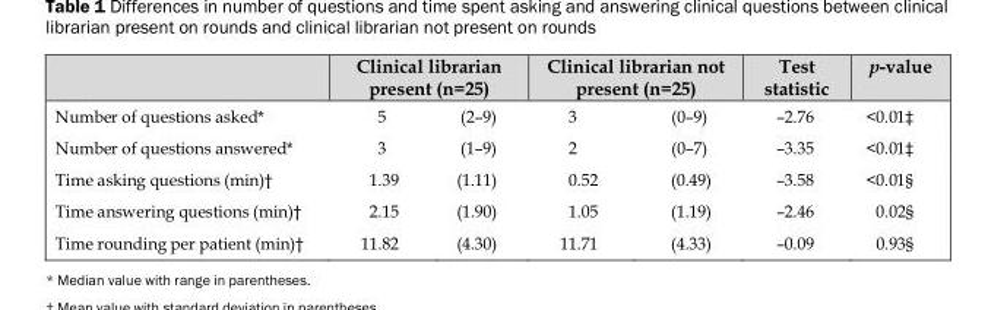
<table><thead><tr><td></td><td>Clinical librarian present (n=25)</td><td>Clinical librarian not present (n=25)</td><td>Test statistic</td><td>p-value</td></tr></thead><tbody><tr><td>Number of questions asked*</td><td>5 (2–9)</td><td>3 (0–9)</td><td>–2.76</td><td>&lt;0.01‡</td></tr><tr><td>Number of questions answered*</td><td>3 (1–9)</td><td>2 (0–7)</td><td>–3.35</td><td>&lt;0.01‡</td></tr><tr><td>Time asking questions (min)†</td><td>1.39 (1.11)</td><td>0.52 (0.49)</td><td>–3.58</td><td>&lt;0.01§</td></tr><tr><td>Time answering questions (min)†</td><td>2.15 (1.90)</td><td>1.05 (1.19)</td><td>–2.46</td><td>0.02§</td></tr><tr><td>Time rounding per patient (min)†</td><td>11.82 (4.30)</td><td>11.71 (4.33)</td><td>–0.09</td><td>0.93§</td></tr></tbody></table>